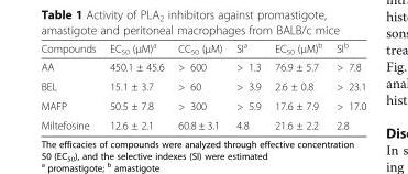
<table><thead><tr><td>Compounds</td><td>EC<sub>50</sub> (μΜ)<sup>a</sup></td><td>CC<sub>50</sub> (μM)</td><td>SI<sup>a</sup></td><td>EC<sub>50</sub> (μM)<sup>b</sup></td><td>SI<sup>b</sup></td></tr></thead><tbody><tr><td>AA</td><td>450.1 ± 45.6</td><td>&gt; 600</td><td>&gt; 1.3</td><td>76.9 ± 5.7</td><td>&gt; 7.8</td></tr><tr><td>BEL</td><td>15.1 ± 3.7</td><td>&gt; 60</td><td>&gt; 3.9</td><td>2.6 ± 0.8</td><td>&gt; 23.1</td></tr><tr><td>MAFP</td><td>50.5 ± 7.8</td><td>&gt; 300</td><td>&gt; 5.9</td><td>17.6 ± 7.9</td><td>&gt; 17.0</td></tr><tr><td>Miltefosine</td><td>12.6 ± 2.1</td><td>60.8 ± 3.1</td><td>4.8</td><td>21.6 ± 2.2</td><td>2.8</td></tr></tbody></table>